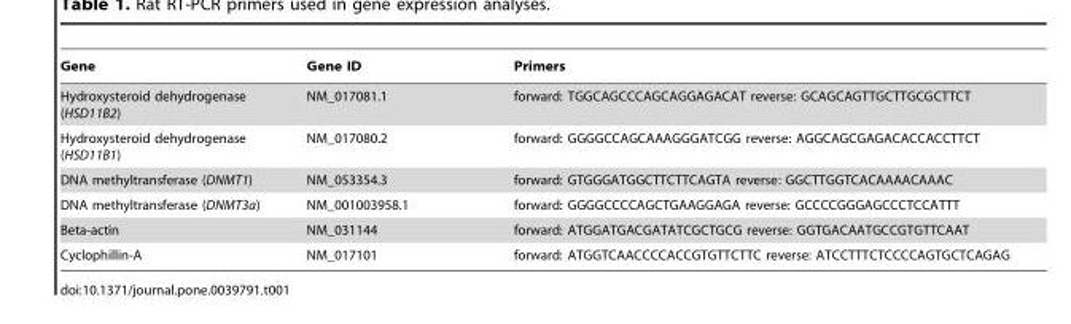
<table><thead><tr><td>Gene</td><td>Gene ID</td><td>Primers</td></tr></thead><tbody><tr><td>Hydroxysteroid dehydrogenase (HSD11B2)</td><td>NM_017081.1</td><td>forward: TGGCAGCCCAGCAGGAGACAT reverse: GCAGCAGTTGCTTGCGCTTCT</td></tr><tr><td>Hydroxysteroid dehydrogenase (HSD11B1)</td><td>NM_017080.2</td><td>forward: GGGGCCAGCAAAGGGATCGG reverse: AGGCAGCGAGACACCACCTTCT</td></tr><tr><td>DNA methyltransferase (DNMT1)</td><td>NM_053354.3</td><td>forward: GTGGGATGGCTTCTTCAGTA reverse: GGCTTGGTCACAAAACAAAC</td></tr><tr><td>DNA methyltransferase (DNMT3a)</td><td>NM_001003958.1</td><td>forward: GGGGCCCCAGCTGAAGGAGA reverse: GCCCCGGGAGCCCTCCATTT</td></tr><tr><td>Beta-actin</td><td>NM_031144</td><td>forward: ATGGATGACGATATCGCTGCG reverse: GGTGACAATGCCGTGTTCAAT</td></tr><tr><td>Cyclophillin-A</td><td>NM_017101</td><td>forward: ATGGTCAACCCCACCGTGTTCTTC reverse: ATCCTTTCTCCCCAGTGCTCAGAG</td></tr></tbody></table>